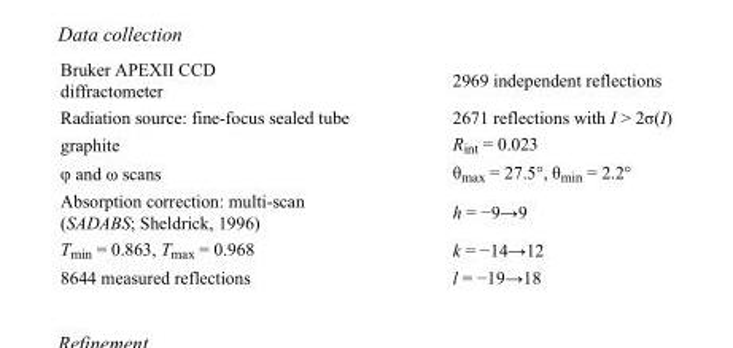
<table><tbody><tr><td>Bruker APEXII CCD diffractometer</td><td>2969 independent reflections</td></tr><tr><td>Radiation source: fine-focus sealed tube</td><td>2671 reflections with I &gt; 2σ(I)</td></tr><tr><td>graphite</td><td>R<sub>int</sub> = 0.023</td></tr><tr><td>φ and ω scans</td><td>θ<sub>max</sub> = 27.5°, θ<sub>min</sub> = 2.2°</td></tr><tr><td>Absorption correction: multi-scan (SADABS; Sheldrick, 1996)</td><td>h = −9→9</td></tr><tr><td>T<sub>min</sub> = 0.863, T<sub>max</sub> = 0.968</td><td>k = −14→12</td></tr><tr><td>8644 measured reflections</td><td>l = −19→18</td></tr></tbody></table>